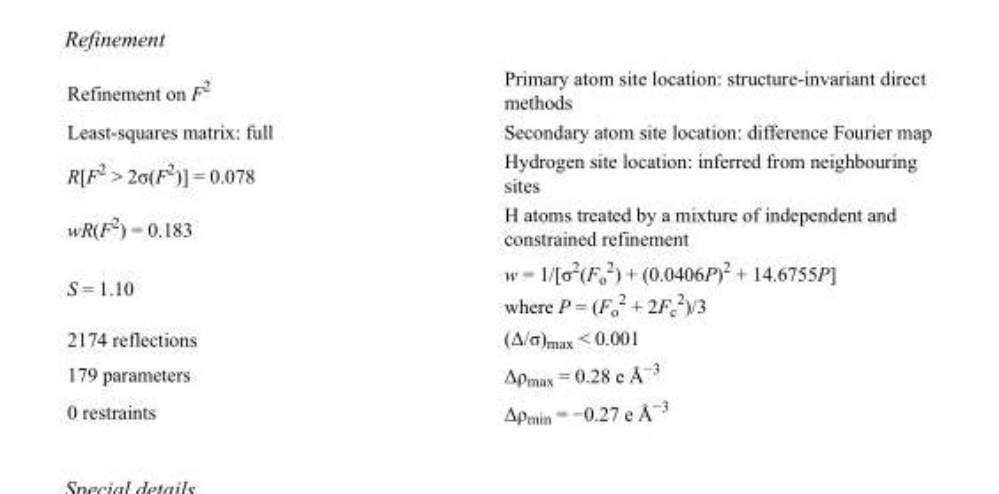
<table><tbody><tr><td>Refinement on F<sup>2</sup></td><td>Primary atom site location: structure-invariant direct methods</td></tr><tr><td>Least-squares matrix: full</td><td>Secondary atom site location: difference Fourier map</td></tr><tr><td>R[F<sup>2</sup> &gt; 2σ(F<sup>2</sup>)] = 0.078</td><td>Hydrogen site location: inferred from neighbouring sites</td></tr><tr><td>wR(F<sup>2</sup>) = 0.183</td><td>H atoms treated by a mixture of independent and constrained refinement</td></tr><tr><td>S = 1.10</td><td>w = 1/[σ<sup>2</sup>(F<sub>o</sub> <sup>2</sup>) + (0.0406P)<sup>2</sup> + 14.6755P] where P = (F<sub>o</sub> <sup>2</sup> + 2F<sub>c</sub> <sup>2</sup>)/3</td></tr><tr><td>2174 reflections</td><td>(Δ/σ)<sub>max</sub> &lt; 0.001</td></tr><tr><td>179 parameters</td><td>Δρ<sub>max</sub> = 0.28 e Å<sup>−3</sup></td></tr><tr><td>0 restraints</td><td>Δρ<sub>min</sub> = −0.27 e Å<sup>−3</sup></td></tr></tbody></table>